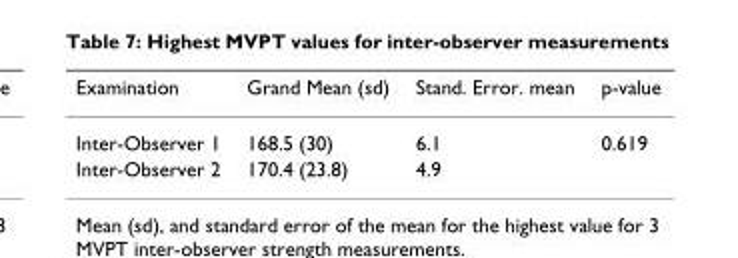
<table><thead><tr><td>Examination</td><td>Grand Mean (sd)</td><td>Stand. Error. mean</td><td>p-value</td></tr></thead><tbody><tr><td>Inter-Observer 1</td><td>168.5 (30)</td><td>6.1</td><td>0.619</td></tr><tr><td>Inter-Observer 2</td><td>170.4 (23.8)</td><td>4.9</td><td></td></tr></tbody></table>